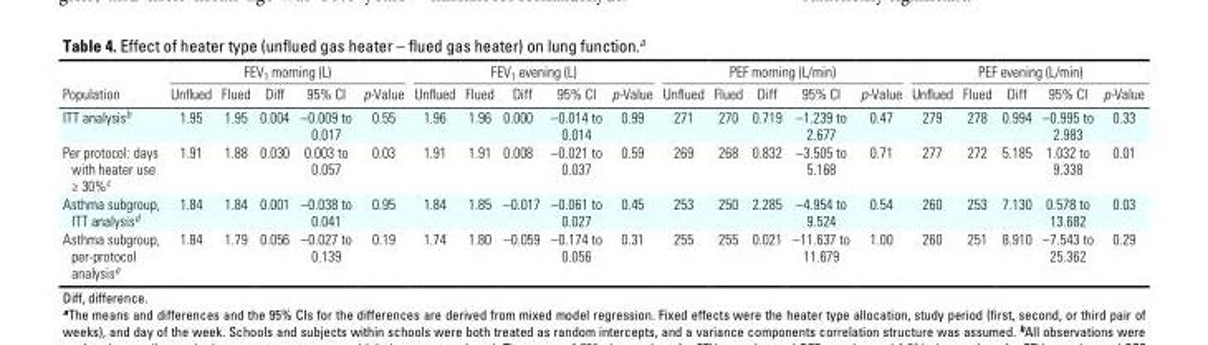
<table><thead><tr><td rowspan="2">Population</td><td colspan="5">FEV<sub>1</sub> morning (L)</td><td colspan="5">FEV<sub>1</sub> evening (L)</td><td colspan="5">PEF morning (L/min)</td><td colspan="5">PEF evening (L/min)</td></tr><tr><td>Unflued</td><td>Flued</td><td>Diff</td><td>95% CI</td><td>p-Value</td><td>Unflued</td><td>Flued</td><td>Diff</td><td>95% CI</td><td>p-Value</td><td>Unflued</td><td>Flued</td><td>Diff</td><td>95% CI</td><td>p-Value</td><td>Unflued</td><td>Flued</td><td>Diff</td><td>95% CI</td><td>p-Value</td></tr></thead><tbody><tr><td>ITT analysis<sup>b</sup></td><td>1.95</td><td>1.95</td><td>0.004</td><td>–0.009 to 0.017</td><td>0.55</td><td>1.96</td><td>1.96</td><td>0.000</td><td>–0.014 to 0.014</td><td>0.99</td><td>271</td><td>270</td><td>0.719</td><td>–1.239 to 2.677</td><td>0.47</td><td>279</td><td>278</td><td>0.994</td><td>–0.995 to 2.983</td><td>0.33</td></tr><tr><td>Per protocol: days with heater use ≥ 30%<sup>c</sup></td><td>1.91</td><td>1.88</td><td>0.030</td><td>0.003 to 0.057</td><td>0.03</td><td>1.91</td><td>1.91</td><td>0.008</td><td>–0.021 to 0.037</td><td>0.59</td><td>269</td><td>268</td><td>0.832</td><td>–3.505 to 5.168</td><td>0.71</td><td>277</td><td>272</td><td>5.185</td><td>1.032 to 9.338</td><td>0.01</td></tr><tr><td>Asthma subgroup, ITT analysis<sup>d</sup></td><td>1.84</td><td>1.84</td><td>0.001</td><td>–0.038 to 0.041</td><td>0.95</td><td>1.84</td><td>1.85</td><td>–0.017</td><td>–0.061 to 0.027</td><td>0.45</td><td>253</td><td>250</td><td>2.285</td><td>–4.954 to 9.524</td><td>0.54</td><td>260</td><td>253</td><td>7.130</td><td>0.578 to 13.682</td><td>0.03</td></tr><tr><td>Asthma subgroup, per-protocol analysis<sup>e</sup></td><td>1.84</td><td>1.79</td><td>0.056</td><td>–0.027 to 0.139</td><td>0.19</td><td>1.74</td><td>1.80</td><td>–0.059</td><td>–0.174 to 0.056</td><td>0.31</td><td>255</td><td>255</td><td>0.021</td><td>–11.637 to 11.679</td><td>1.00</td><td>260</td><td>251</td><td>8.910</td><td>–7.543 to 25.362</td><td>0.29</td></tr></tbody></table>